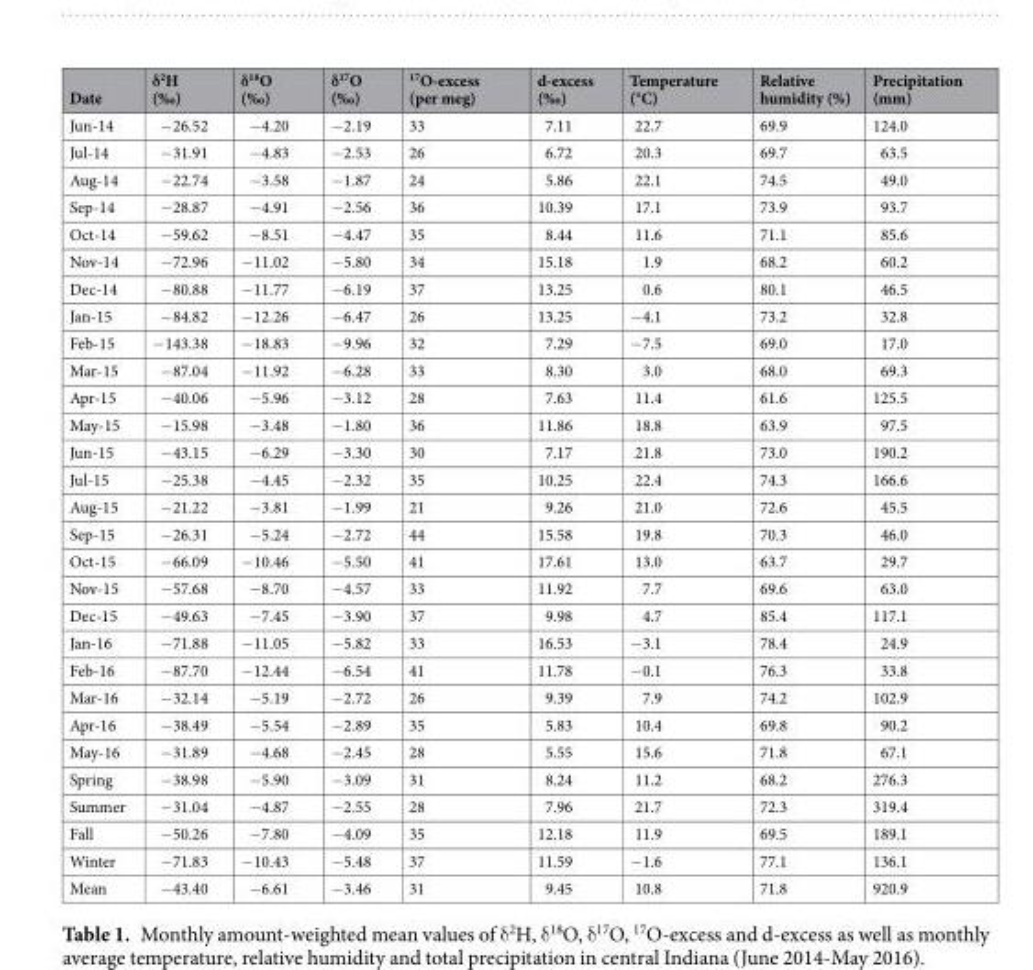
<table><thead><tr><td>Date</td><td>δ<sup>2</sup>H (‰)</td><td>δ<sup>18</sup>O (‰)</td><td>δ<sup>17</sup>O (‰)</td><td><sup>17</sup>O-excess (per meg)</td><td>d-excess (‰)</td><td>Temperature (°C)</td><td>Relative humidity (%)</td><td>Precipitation (mm)</td></tr></thead><tbody><tr><td>Jun-14</td><td>−26.52</td><td>−4.20</td><td>−2.19</td><td>33</td><td>7.11</td><td>22.7</td><td>69.9</td><td>124.0</td></tr><tr><td>Jul-14</td><td>−31.91</td><td>−4.83</td><td>−2.53</td><td>26</td><td>6.72</td><td>20.3</td><td>69.7</td><td>63.5</td></tr><tr><td>Aug-14</td><td>−22.74</td><td>−3.58</td><td>−1.87</td><td>24</td><td>5.86</td><td>22.1</td><td>74.5</td><td>49.0</td></tr><tr><td>Sep-14</td><td>−28.87</td><td>−4.91</td><td>−2.56</td><td>36</td><td>10.39</td><td>17.1</td><td>73.9</td><td>93.7</td></tr><tr><td>Oct-14</td><td>−59.62</td><td>−8.51</td><td>−4.47</td><td>35</td><td>8.44</td><td>11.6</td><td>71.1</td><td>85.6</td></tr><tr><td>Nov-14</td><td>−72.96</td><td>−11.02</td><td>−5.80</td><td>34</td><td>15.18</td><td>1.9</td><td>68.2</td><td>60.2</td></tr><tr><td>Dec-14</td><td>−80.88</td><td>−11.77</td><td>−6.19</td><td>37</td><td>13.25</td><td>0.6</td><td>80.1</td><td>46.5</td></tr><tr><td>Jan-15</td><td>−84.82</td><td>−12.26</td><td>−6.47</td><td>26</td><td>13.25</td><td>−4.1</td><td>73.2</td><td>32.8</td></tr><tr><td>Feb-15</td><td>−143.38</td><td>−18.83</td><td>−9.96</td><td>32</td><td>7.29</td><td>−7.5</td><td>69.0</td><td>17.0</td></tr><tr><td>Mar-15</td><td>−87.04</td><td>−11.92</td><td>−6.28</td><td>33</td><td>8.30</td><td>3.0</td><td>68.0</td><td>69.3</td></tr><tr><td>Apr-15</td><td>−40.06</td><td>−5.96</td><td>−3.12</td><td>28</td><td>7.63</td><td>11.4</td><td>61.6</td><td>125.5</td></tr><tr><td>May-15</td><td>−15.98</td><td>−3.48</td><td>−1.80</td><td>36</td><td>11.86</td><td>18.8</td><td>63.9</td><td>97.5</td></tr><tr><td>Jun-15</td><td>−43.15</td><td>−6.29</td><td>−3.30</td><td>30</td><td>7.17</td><td>21.8</td><td>73.0</td><td>190.2</td></tr><tr><td>Jul-15</td><td>−25.38</td><td>−4.45</td><td>−2.32</td><td>35</td><td>10.25</td><td>22.4</td><td>74.3</td><td>166.6</td></tr><tr><td>Aug-15</td><td>−21.22</td><td>−3.81</td><td>−1.99</td><td>21</td><td>9.26</td><td>21.0</td><td>72.6</td><td>45.5</td></tr><tr><td>Sep-15</td><td>−26.31</td><td>−5.24</td><td>−2.72</td><td>44</td><td>15.58</td><td>19.8</td><td>70.3</td><td>46.0</td></tr><tr><td>Oct-15</td><td>−66.09</td><td>−10.46</td><td>−5.50</td><td>41</td><td>17.61</td><td>13.0</td><td>63.7</td><td>29.7</td></tr><tr><td>Nov-15</td><td>−57.68</td><td>−8.70</td><td>−4.57</td><td>33</td><td>11.92</td><td>7.7</td><td>69.6</td><td>63.0</td></tr><tr><td>Dec-15</td><td>−49.63</td><td>−7.45</td><td>−3.90</td><td>37</td><td>9.98</td><td>4.7</td><td>85.4</td><td>117.1</td></tr><tr><td>Jan-16</td><td>−71.88</td><td>−11.05</td><td>−5.82</td><td>33</td><td>16.53</td><td>−3.1</td><td>78.4</td><td>24.9</td></tr><tr><td>Feb-16</td><td>−87.70</td><td>−12.44</td><td>−6.54</td><td>41</td><td>11.78</td><td>−0.1</td><td>76.3</td><td>33.8</td></tr><tr><td>Mar-16</td><td>−32.14</td><td>−5.19</td><td>−2.72</td><td>26</td><td>9.39</td><td>7.9</td><td>74.2</td><td>102.9</td></tr><tr><td>Apr-16</td><td>−38.49</td><td>−5.54</td><td>−2.89</td><td>35</td><td>5.83</td><td>10.4</td><td>69.8</td><td>90.2</td></tr><tr><td>May-16</td><td>−31.89</td><td>−4.68</td><td>−2.45</td><td>28</td><td>5.55</td><td>15.6</td><td>71.8</td><td>67.1</td></tr><tr><td>Spring</td><td>−38.98</td><td>−5.90</td><td>−3.09</td><td>31</td><td>8.24</td><td>11.2</td><td>68.2</td><td>276.3</td></tr><tr><td>Summer</td><td>−31.04</td><td>−4.87</td><td>−2.55</td><td>28</td><td>7.96</td><td>21.7</td><td>72.3</td><td>319.4</td></tr><tr><td>Fall</td><td>−50.26</td><td>−7.80</td><td>−4.09</td><td>35</td><td>12.18</td><td>11.9</td><td>69.5</td><td>189.1</td></tr><tr><td>Winter</td><td>−71.83</td><td>−10.43</td><td>−5.48</td><td>37</td><td>11.59</td><td>−1.6</td><td>77.1</td><td>136.1</td></tr><tr><td>Mean</td><td>−43.40</td><td>−6.61</td><td>−3.46</td><td>31</td><td>9.45</td><td>10.8</td><td>71.8</td><td>920.9</td></tr></tbody></table>